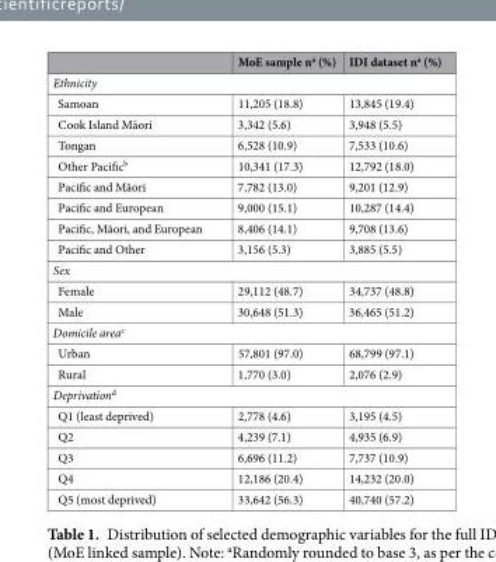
<table><thead><tr><td></td><td>MoE sample n<sup>a</sup> (%)</td><td>IDI dataset n<sup>a</sup> (%)</td></tr></thead><tbody><tr><td colspan="3">Ethnicity</td></tr><tr><td>Samoan</td><td>11,205 (18.8)</td><td>13,845 (19.4)</td></tr><tr><td>Cook Island Māori</td><td>3,342 (5.6)</td><td>3,948 (5.5)</td></tr><tr><td>Tongan</td><td>6,528 (10.9)</td><td>7,533 (10.6)</td></tr><tr><td>Other Pacific<sup>b</sup></td><td>10,341 (17.3)</td><td>12,792 (18.0)</td></tr><tr><td>Pacific and Māori</td><td>7,782 (13.0)</td><td>9,201 (12.9)</td></tr><tr><td>Pacific and European</td><td>9,000 (15.1)</td><td>10,287 (14.4)</td></tr><tr><td>Pacific, Māori, and European</td><td>8,406 (14.1)</td><td>9,708 (13.6)</td></tr><tr><td>Pacific and Other</td><td>3,156 (5.3)</td><td>3,885 (5.5)</td></tr><tr><td colspan="3">Sex</td></tr><tr><td>Female</td><td>29,112 (48.7)</td><td>34,737 (48.8)</td></tr><tr><td>Male</td><td>30,648 (51.3)</td><td>36,465 (51.2)</td></tr><tr><td colspan="3">Domicile area<sup>c</sup></td></tr><tr><td>Urban</td><td>57,801 (97.0)</td><td>68,799 (97.1)</td></tr><tr><td>Rural</td><td>1,770 (3.0)</td><td>2,076 (2.9)</td></tr><tr><td colspan="3">Deprivation<sup>d</sup></td></tr><tr><td>Q1 (least deprived)</td><td>2,778 (4.6)</td><td>3,195 (4.5)</td></tr><tr><td>Q2</td><td>4,239 (7.1)</td><td>4,935 (6.9)</td></tr><tr><td>Q3</td><td>6,696 (11.2)</td><td>7,737 (10.9)</td></tr><tr><td>Q4</td><td>12,186 (20.4)</td><td>14,232 (20.0)</td></tr><tr><td>Q5 (most deprived)</td><td>33,642 (56.3)</td><td>40,740 (57.2)</td></tr></tbody></table>